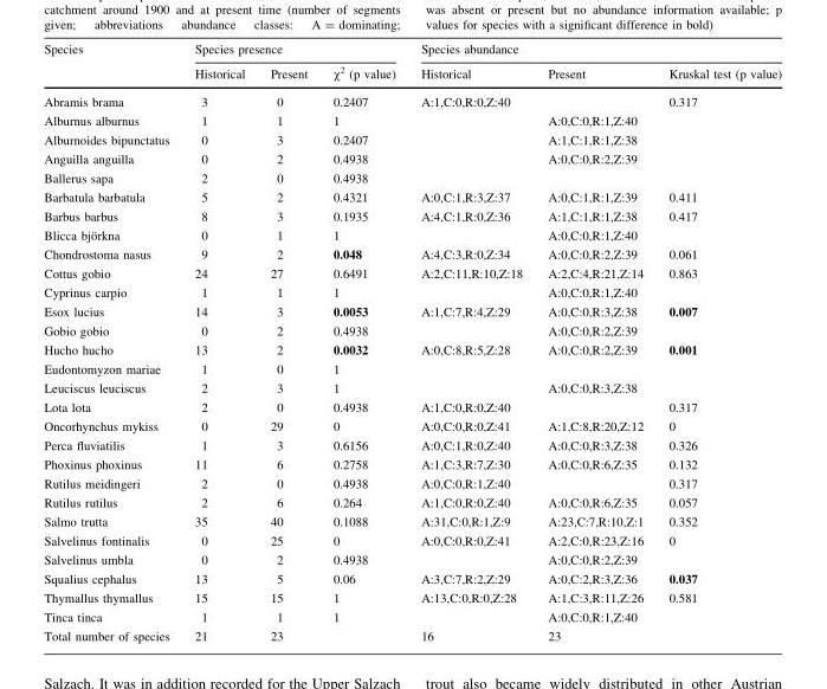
<table><thead><tr><td rowspan="2">Species</td><td colspan="3">Species presence</td><td colspan="3">Species abundance</td></tr><tr><td>Historical</td><td>Present</td><td>χ<sup>2</sup> (p value)</td><td>Historical</td><td>Present</td><td>Kruskal test (p value)</td></tr></thead><tbody><tr><td>Abramis brama</td><td>3</td><td>0</td><td>0.2407</td><td>A:1,C:0,R:0,Z:40</td><td></td><td>0.317</td></tr><tr><td>Alburnus alburnus</td><td>1</td><td>1</td><td>1</td><td></td><td>A:0,C:0,R:1,Z:40</td><td></td></tr><tr><td>Alburnoides bipunctatus</td><td>0</td><td>3</td><td>0.2407</td><td></td><td>A:1,C:1,R:1,Z:38</td><td></td></tr><tr><td>Anguilla anguilla</td><td>0</td><td>2</td><td>0.4938</td><td></td><td>A:0,C:0,R:2,Z:39</td><td></td></tr><tr><td>Ballerus sapa</td><td>2</td><td>0</td><td>0.4938</td><td></td><td></td><td></td></tr><tr><td>Barbatula barbatula</td><td>5</td><td>2</td><td>0.4321</td><td>A:0,C:1,R:3,Z:37</td><td>A:0,C:1,R:1,Z:39</td><td>0.411</td></tr><tr><td>Barbus barbus</td><td>8</td><td>3</td><td>0.1935</td><td>A:4,C:1,R:0,Z:36</td><td>A:1,C:1,R:1,Z:38</td><td>0.417</td></tr><tr><td>Blicca bjo¨rkna</td><td>0</td><td>1</td><td>1</td><td></td><td>A:0,C:0,R:1,Z:40</td><td></td></tr><tr><td>Chondrostoma nasus</td><td>9</td><td>2</td><td>0.048</td><td>A:4,C:3,R:0,Z:34</td><td>A:0,C:0,R:2,Z:39</td><td>0.061</td></tr><tr><td>Cottus gobio</td><td>24</td><td>27</td><td>0.6491</td><td>A:2,C:11,R:10,Z:18</td><td>A:2,C:4,R:21,Z:14</td><td>0.863</td></tr><tr><td>Cyprinus carpio</td><td>1</td><td>1</td><td>1</td><td></td><td>A:0,C:0,R:1,Z:40</td><td></td></tr><tr><td>Esox lucius</td><td>14</td><td>3</td><td>0.0053</td><td>A:1,C:7,R:4,Z:29</td><td>A:0,C:0,R:3,Z:38</td><td>0.007</td></tr><tr><td>Gobio gobio</td><td>0</td><td>2</td><td>0.4938</td><td></td><td>A:0,C:0,R:2,Z:39</td><td></td></tr><tr><td>Hucho hucho</td><td>13</td><td>2</td><td>0.0032</td><td>A:0,C:8,R:5,Z:28</td><td>A:0,C:0,R:2,Z:39</td><td>0.001</td></tr><tr><td>Eudontomyzon mariae</td><td>1</td><td>0</td><td>1</td><td></td><td></td><td></td></tr><tr><td>Leuciscus leuciscus</td><td>2</td><td>3</td><td>1</td><td></td><td>A:0,C:0,R:3,Z:38</td><td></td></tr><tr><td>Lota lota</td><td>2</td><td>0</td><td>0.4938</td><td>A:1,C:0,R:0,Z:40</td><td></td><td>0.317</td></tr><tr><td>Oncorhynchus mykiss</td><td>0</td><td>29</td><td>0</td><td>A:0,C:0,R:0,Z:41</td><td>A:1,C:8,R:20,Z:12</td><td>0</td></tr><tr><td>Perca fluviatilis</td><td>1</td><td>3</td><td>0.6156</td><td>A:0,C:1,R:0,Z:40</td><td>A:0,C:0,R:3,Z:38</td><td>0.326</td></tr><tr><td>Phoxinus phoxinus</td><td>11</td><td>6</td><td>0.2758</td><td>A:1,C:3,R:7,Z:30</td><td>A:0,C:0,R:6,Z:35</td><td>0.132</td></tr><tr><td>Rutilus meidingeri</td><td>2</td><td>0</td><td>0.4938</td><td>A:0,C:0,R:1,Z:40</td><td></td><td>0.317</td></tr><tr><td>Rutilus rutilus</td><td>2</td><td>6</td><td>0.264</td><td>A:1,C:0,R:0,Z:40</td><td>A:0,C:0,R:6,Z:35</td><td>0.057</td></tr><tr><td>Salmo trutta</td><td>35</td><td>40</td><td>0.1088</td><td>A:31,C:0,R:1,Z:9</td><td>A:23,C:7,R:10,Z:1</td><td>0.352</td></tr><tr><td>Salvelinus fontinalis</td><td>0</td><td>25</td><td>0</td><td>A:0,C:0,R:0,Z:41</td><td>A:2,C:0,R:23,Z:16</td><td>0</td></tr><tr><td>Salvelinus umbla</td><td>0</td><td>2</td><td>0.4938</td><td></td><td>A:0,C:0,R:2,Z:39</td><td></td></tr><tr><td>Squalius cephalus</td><td>13</td><td>5</td><td>0.06</td><td>A:3,C:7,R:2,Z:29</td><td>A:0,C:2,R:3,Z:36</td><td>0.037</td></tr><tr><td>Thymallus thymallus</td><td>15</td><td>15</td><td>1</td><td>A:13,C:0,R:0,Z:28</td><td>A:1,C:3,R:11,Z:26</td><td>0.581</td></tr><tr><td>Tinca tinca</td><td>1</td><td>1</td><td>1</td><td></td><td>A:0,C:0,R:1,Z:40</td><td></td></tr><tr><td>Total number of species</td><td>21</td><td>23</td><td></td><td>16</td><td>23</td><td></td></tr></tbody></table>